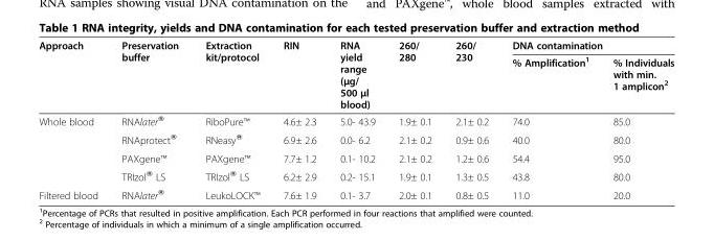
<table><thead><tr><td rowspan="2">Approach</td><td rowspan="2">Preservation buffer</td><td rowspan="2">Extraction kit/protocol</td><td rowspan="2">RIN</td><td rowspan="2">RNA yield range (μg/ 500 μl blood)</td><td rowspan="2">260/ 280</td><td rowspan="2">260/ 230</td><td colspan="2">DNA contamination</td></tr><tr><td>% Amplification<sup>1</sup></td><td>% Individuals with min. 1 amplicon<sup>2</sup></td></tr></thead><tbody><tr><td rowspan="4">Whole blood</td><td>RNAlater®</td><td>RiboPure™</td><td>4.6± 2.3</td><td>5.0- 43.9</td><td>1.9± 0.1</td><td>2.1± 0.2</td><td>74.0</td><td>85.0</td></tr><tr><td>RNAprotect®</td><td>RNeasy®</td><td>6.9± 2.6</td><td>0.0- 6.2</td><td>2.1± 0.2</td><td>0.9± 0.6</td><td>40.0</td><td>80.0</td></tr><tr><td>PAXgene™</td><td>PAXgene™</td><td>7.7± 1.2</td><td>0.1- 10.2</td><td>2.1± 0.2</td><td>1.2± 0.6</td><td>54.4</td><td>95.0</td></tr><tr><td>TRIzol® LS</td><td>TRIzol® LS</td><td>6.2± 2.9</td><td>0.2- 15.1</td><td>1.9± 0.1</td><td>1.3± 0.5</td><td>43.8</td><td>80.0</td></tr><tr><td>Filtered blood</td><td>RNAlater®</td><td>LeukoLOCK™</td><td>7.6± 1.9</td><td>0.1- 3.7</td><td>2.0± 0.1</td><td>0.8± 0.5</td><td>11.0</td><td>20.0</td></tr></tbody></table>